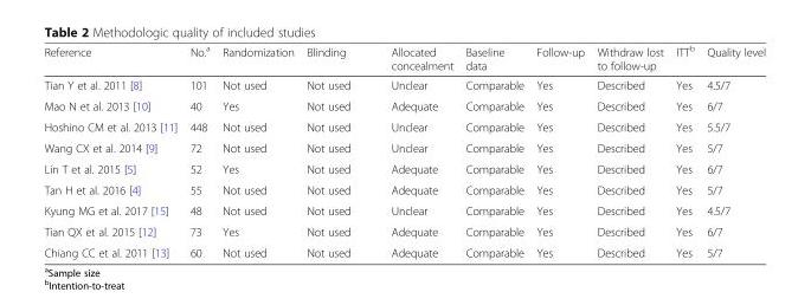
<table><thead><tr><td>Reference</td><td>No.<sup>a</sup></td><td>Randomization</td><td>Blinding</td><td>Allocated concealment</td><td>Baseline data</td><td>Follow-up</td><td>Withdraw lost to follow-up</td><td>ITT<sup>b</sup></td><td>Quality level</td></tr></thead><tbody><tr><td>Tian Y et al. 2011 [8]</td><td>101</td><td>Not used</td><td>Not used</td><td>Unclear</td><td>Comparable</td><td>Yes</td><td>Described</td><td>Yes</td><td>4.5/7</td></tr><tr><td>Mao N et al. 2013 [10]</td><td>40</td><td>Yes</td><td>Not used</td><td>Adequate</td><td>Comparable</td><td>Yes</td><td>Described</td><td>Yes</td><td>6/7</td></tr><tr><td>Hoshino CM et al. 2013 [11]</td><td>448</td><td>Not used</td><td>Not used</td><td>Unclear</td><td>Comparable</td><td>Yes</td><td>Described</td><td>Yes</td><td>5.5/7</td></tr><tr><td>Wang CX et al. 2014 [9]</td><td>72</td><td>Not used</td><td>Not used</td><td>Unclear</td><td>Comparable</td><td>Yes</td><td>Described</td><td>Yes</td><td>5/7</td></tr><tr><td>Lin T et al. 2015 [5]</td><td>52</td><td>Yes</td><td>Not used</td><td>Adequate</td><td>Comparable</td><td>Yes</td><td>Described</td><td>Yes</td><td>6/7</td></tr><tr><td>Tan H et al. 2016 [4]</td><td>55</td><td>Not used</td><td>Not used</td><td>Adequate</td><td>Comparable</td><td>Yes</td><td>Described</td><td>Yes</td><td>5/7</td></tr><tr><td>Kyung MG et al. 2017 [15]</td><td>48</td><td>Not used</td><td>Not used</td><td>Unclear</td><td>Comparable</td><td>Yes</td><td>Described</td><td>Yes</td><td>4.5/7</td></tr><tr><td>Tian QX et al. 2015 [12]</td><td>73</td><td>Yes</td><td>Not used</td><td>Adequate</td><td>Comparable</td><td>Yes</td><td>Described</td><td>Yes</td><td>6/7</td></tr><tr><td>Chiang CC et al. 2011 [13]</td><td>60</td><td>Not used</td><td>Not used</td><td>Adequate</td><td>Comparable</td><td>Yes</td><td>Described</td><td>Yes</td><td>5/7</td></tr></tbody></table>